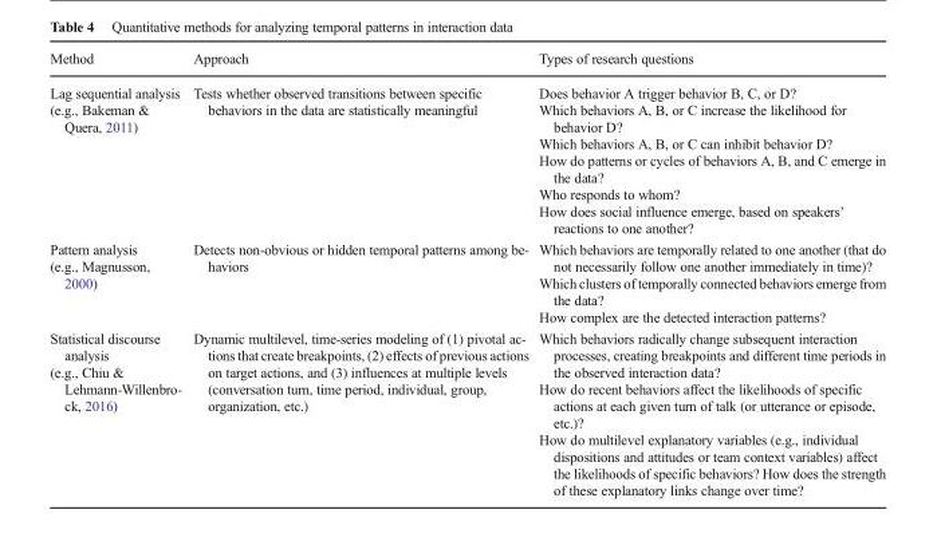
<table><thead><tr><td>Method</td><td>Approach</td><td>Types of research questions</td></tr></thead><tbody><tr><td>Lag sequential analysis (e.g., Bakeman &amp; Quera, 2011)</td><td>Tests whether observed transitions between specific behaviors in the data are statistically meaningful</td><td>Does behavior A trigger behavior B, C, or D? Which behaviors A, B, or C increase the likelihood for behavior D? Which behaviors A, B, or C can inhibit behavior D? How do patterns or cycles of behaviors A, B, and C emerge in the data? Who responds to whom? How does social influence emerge, based on speakers’ reactions to one another?</td></tr><tr><td>Pattern analysis (e.g., Magnusson, 2000)</td><td>Detects non-obvious or hidden temporal patterns among be- haviors</td><td>Which behaviors are temporally related to one another (that do not necessarily follow one another immediately in time)? Which clusters of temporally connected behaviors emerge from the data? How complex are the detected interaction patterns?</td></tr><tr><td>Statistical discourse analysis (e.g., Chiu &amp; Lehmann-Willenbro- ck, 2016)</td><td>Dynamic multilevel, time-series modeling of (1) pivotal ac- tions that create breakpoints, (2) effects of previous actions on target actions, and (3) influences at multiple levels (conversation turn, time period, individual, group, organization, etc.)</td><td>Which behaviors radically change subsequent interaction processes, creating breakpoints and different time periods in the observed interaction data? How do recent behaviors affect the likelihoods of specific actions at each given turn of talk (or utterance or episode, etc.)? How do multilevel explanatory variables (e.g., individual dispositions and attitudes or team context variables) affect the likelihoods of specific behaviors? How does the strength of these explanatory links change over time?</td></tr></tbody></table>